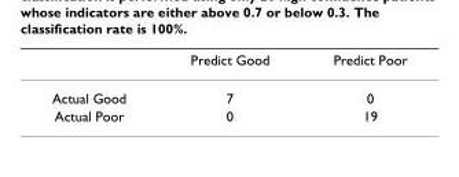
<table><thead><tr><td></td><td>Predict Good</td><td>Predict Poor</td></tr></thead><tbody><tr><td>Actual Good</td><td>7</td><td>0</td></tr><tr><td>Actual Poor</td><td>0</td><td>19</td></tr></tbody></table>